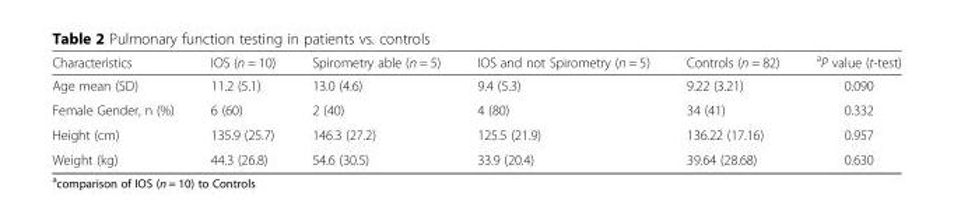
<table><thead><tr><td>Characteristics</td><td>IOS (n = 10)</td><td>Spirometry able (n = 5)</td><td>IOS and not Spirometry (n = 5)</td><td>Controls (n = 82)</td><td><sup>a</sup>P value (t-test)</td></tr></thead><tbody><tr><td>Age mean (SD)</td><td>11.2 (5.1)</td><td>13.0 (4.6)</td><td>9.4 (5.3)</td><td>9.22 (3.21)</td><td>0.090</td></tr><tr><td>Female Gender, n (%)</td><td>6 (60)</td><td>2 (40)</td><td>4 (80)</td><td>34 (41)</td><td>0.332</td></tr><tr><td>Height (cm)</td><td>135.9 (25.7)</td><td>146.3 (27.2)</td><td>125.5 (21.9)</td><td>136.22 (17.16)</td><td>0.957</td></tr><tr><td>Weight (kg)</td><td>44.3 (26.8)</td><td>54.6 (30.5)</td><td>33.9 (20.4)</td><td>39.64 (28.68)</td><td>0.630</td></tr></tbody></table>